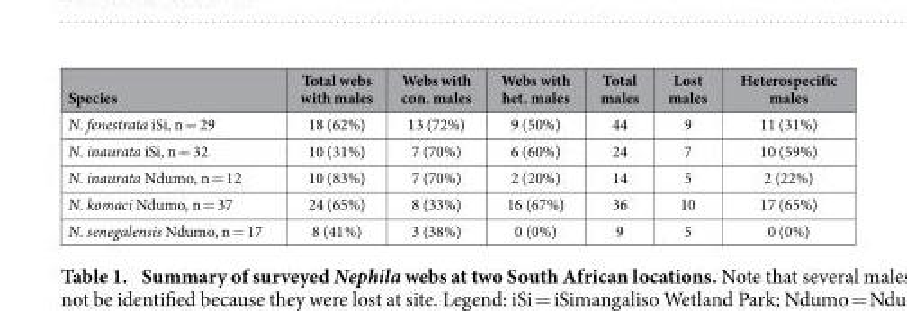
<table><thead><tr><td>Species</td><td>Total webs with males</td><td>Webs with con. males</td><td>Webs with het. males</td><td>Total males</td><td>Lost males</td><td>Heterospecific males</td></tr></thead><tbody><tr><td>N. fenestrata iSi, n = 29</td><td>18 (62%)</td><td>13 (72%)</td><td>9 (50%)</td><td>44</td><td>9</td><td>11 (31%)</td></tr><tr><td>N. inaurata iSi, n = 32</td><td>10 (31%)</td><td>7 (70%)</td><td>6 (60%)</td><td>24</td><td>7</td><td>10 (59%)</td></tr><tr><td>N. inaurata Ndumo, n = 12</td><td>10 (83%)</td><td>7 (70%)</td><td>2 (20%)</td><td>14</td><td>5</td><td>2 (22%)</td></tr><tr><td>N. komaci Ndumo, n = 37</td><td>24 (65%)</td><td>8 (33%)</td><td>16 (67%)</td><td>36</td><td>10</td><td>17 (65%)</td></tr><tr><td>N. senegalensis Ndumo, n = 17</td><td>8 (41%)</td><td>3 (38%)</td><td>0 (0%)</td><td>9</td><td>5</td><td>0 (0%)</td></tr></tbody></table>